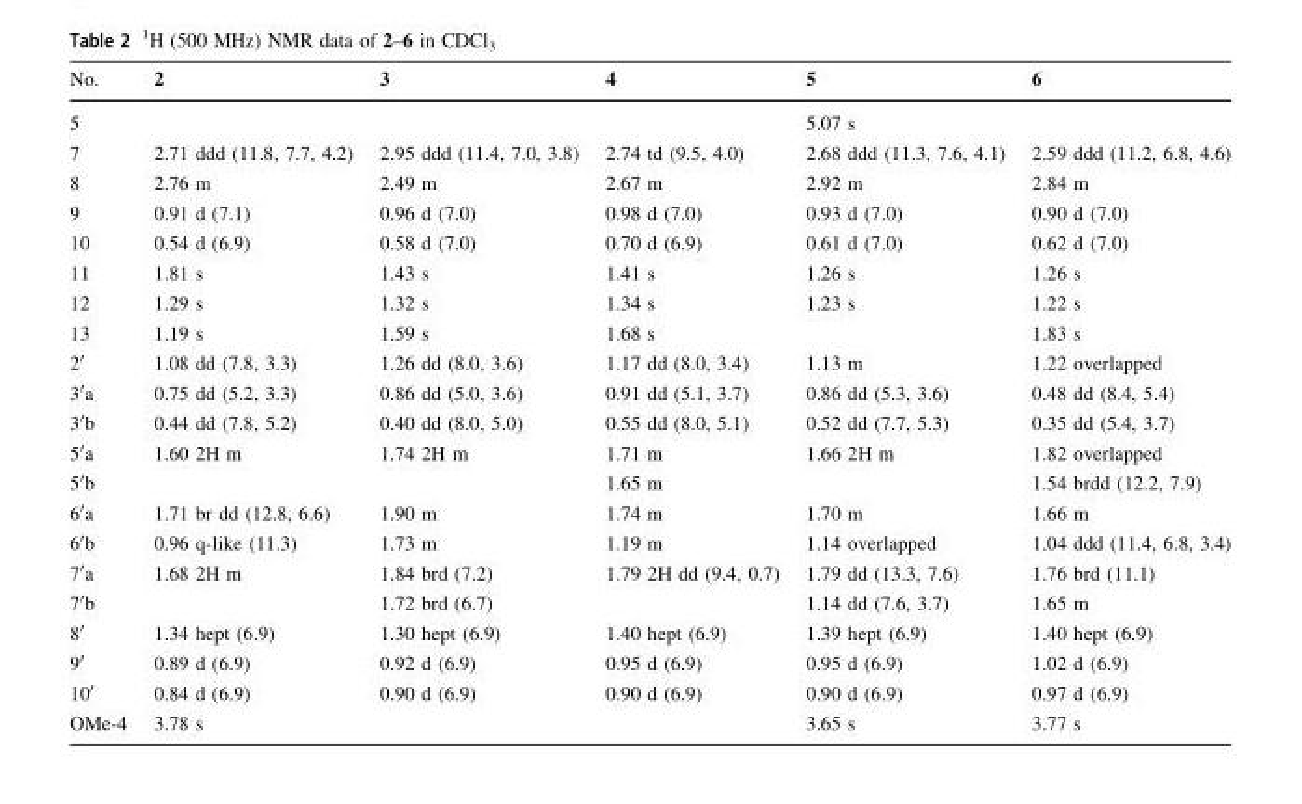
<table><thead><tr><td>No.</td><td>2</td><td>3</td><td>4</td><td>5</td><td>6</td></tr></thead><tbody><tr><td>5</td><td></td><td></td><td></td><td>5.07 s</td><td></td></tr><tr><td>7</td><td>2.71 ddd (11.8, 7.7, 4.2)</td><td>2.95 ddd (11.4, 7.0, 3.8)</td><td>2.74 td (9.5, 4.0)</td><td>2.68 ddd (11.3, 7.6, 4.1)</td><td>2.59 ddd (11.2, 6.8, 4.6)</td></tr><tr><td>8</td><td>2.76 m</td><td>2.49 m</td><td>2.67 m</td><td>2.92 m</td><td>2.84 m</td></tr><tr><td>9</td><td>0.91 d (7.1)</td><td>0.96 d (7.0)</td><td>0.98 d (7.0)</td><td>0.93 d (7.0)</td><td>0.90 d (7.0)</td></tr><tr><td>10</td><td>0.54 d (6.9)</td><td>0.58 d (7.0)</td><td>0.70 d (6.9)</td><td>0.61 d (7.0)</td><td>0.62 d (7.0)</td></tr><tr><td>11</td><td>1.81 s</td><td>1.43 s</td><td>1.41 s</td><td>1.26 s</td><td>1.26 s</td></tr><tr><td>12</td><td>1.29 s</td><td>1.32 s</td><td>1.34 s</td><td>1.23 s</td><td>1.22 s</td></tr><tr><td>13</td><td>1.19 s</td><td>1.59 s</td><td>1.68 s</td><td></td><td>1.83 s</td></tr><tr><td>2′</td><td>1.08 dd (7.8, 3.3)</td><td>1.26 dd (8.0, 3.6)</td><td>1.17 dd (8.0, 3.4)</td><td>1.13 m</td><td>1.22 overlapped</td></tr><tr><td>3′a</td><td>0.75 dd (5.2, 3.3)</td><td>0.86 dd (5.0, 3.6)</td><td>0.91 dd (5.1, 3.7)</td><td>0.86 dd (5.3, 3.6)</td><td>0.48 dd (8.4, 5.4)</td></tr><tr><td>3′b</td><td>0.44 dd (7.8, 5.2)</td><td>0.40 dd (8.0, 5.0)</td><td>0.55 dd (8.0, 5.1)</td><td>0.52 dd (7.7, 5.3)</td><td>0.35 dd (5.4, 3.7)</td></tr><tr><td>5′a</td><td>1.60 2H m</td><td>1.74 2H m</td><td>1.71 m</td><td>1.66 2H m</td><td>1.82 overlapped</td></tr><tr><td>5′b</td><td></td><td></td><td>1.65 m</td><td></td><td>1.54 brdd (12.2, 7.9)</td></tr><tr><td>6′a</td><td>1.71 br dd (12.8, 6.6)</td><td>1.90 m</td><td>1.74 m</td><td>1.70 m</td><td>1.66 m</td></tr><tr><td>6′b</td><td>0.96 q-like (11.3)</td><td>1.73 m</td><td>1.19 m</td><td>1.14 overlapped</td><td>1.04 ddd (11.4, 6.8, 3.4)</td></tr><tr><td>7′a</td><td>1.68 2H m</td><td>1.84 brd (7.2)</td><td>1.79 2H dd (9.4, 0.7)</td><td>1.79 dd (13.3, 7.6)</td><td>1.76 brd (11.1)</td></tr><tr><td>7′b</td><td></td><td>1.72 brd (6.7)</td><td></td><td>1.14 dd (7.6, 3.7)</td><td>1.65 m</td></tr><tr><td>8′</td><td>1.34 hept (6.9)</td><td>1.30 hept (6.9)</td><td>1.40 hept (6.9)</td><td>1.39 hept (6.9)</td><td>1.40 hept (6.9)</td></tr><tr><td>9′</td><td>0.89 d (6.9)</td><td>0.92 d (6.9)</td><td>0.95 d (6.9)</td><td>0.95 d (6.9)</td><td>1.02 d (6.9)</td></tr><tr><td>10′</td><td>0.84 d (6.9)</td><td>0.90 d (6.9)</td><td>0.90 d (6.9)</td><td>0.90 d (6.9)</td><td>0.97 d (6.9)</td></tr><tr><td>OMe-4</td><td>3.78 s</td><td></td><td></td><td>3.65 s</td><td>3.77 s</td></tr></tbody></table>